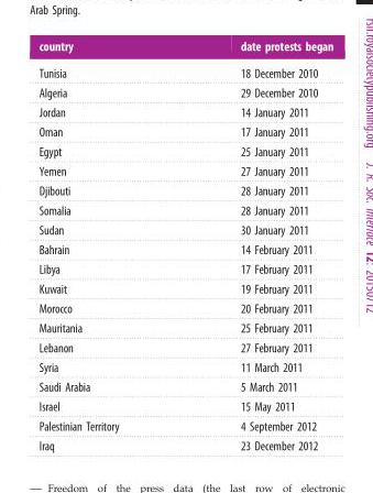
<table><thead><tr><td>country</td><td>date protests began</td></tr></thead><tbody><tr><td>Tunisia</td><td>18 December 2010</td></tr><tr><td>Algeria</td><td>29 December 2010</td></tr><tr><td>Jordan</td><td>14 January 2011</td></tr><tr><td>Oman</td><td>17 January 2011</td></tr><tr><td>Egypt</td><td>25 January 2011</td></tr><tr><td>Yemen</td><td>27 January 2011</td></tr><tr><td>Djibouti</td><td>28 January 2011</td></tr><tr><td>Somalia</td><td>28 January 2011</td></tr><tr><td>Sudan</td><td>30 January 2011</td></tr><tr><td>Bahrain</td><td>14 February 2011</td></tr><tr><td>Libya</td><td>17 February 2011</td></tr><tr><td>Kuwait</td><td>19 February 2011</td></tr><tr><td>Morocco</td><td>20 February 2011</td></tr><tr><td>Mauritania</td><td>25 February 2011</td></tr><tr><td>Lebanon</td><td>27 February 2011</td></tr><tr><td>Syria</td><td>11 March 2011</td></tr><tr><td>Saudi Arabia</td><td>5 March 2011</td></tr><tr><td>Israel</td><td>15 May 2011</td></tr><tr><td>Palestinian Territory</td><td>4 September 2012</td></tr><tr><td>Iraq</td><td>23 December 2012</td></tr></tbody></table>